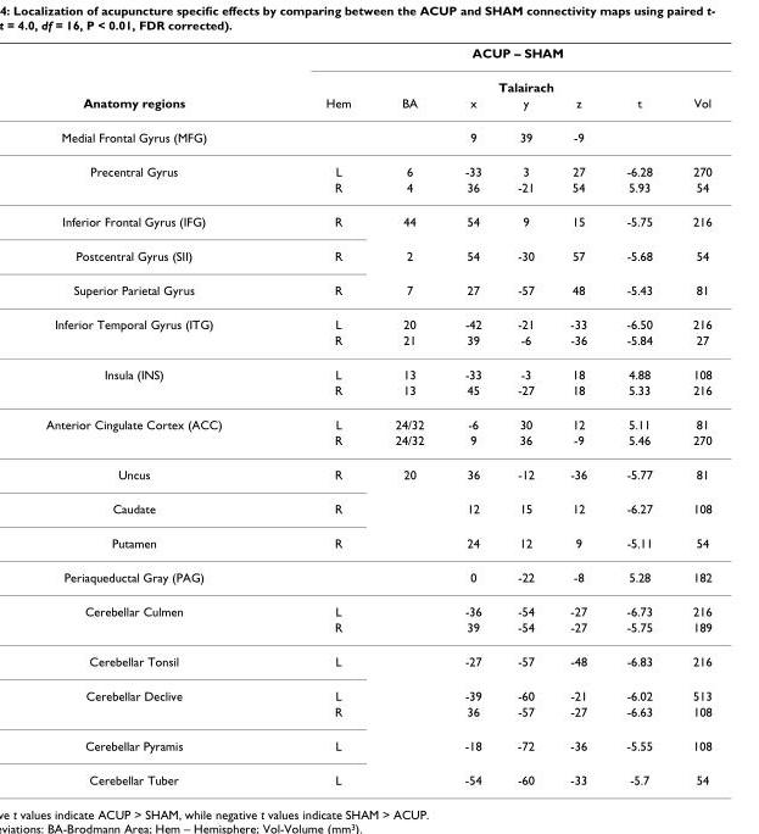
<table><thead><tr><td rowspan="3">Anatomy regions</td><td colspan="7">ACUP – SHAM</td></tr><tr><td rowspan="2">Hem</td><td rowspan="2">BA</td><td colspan="3">Talairach</td><td rowspan="2">t</td><td rowspan="2">Vol</td></tr><tr><td>x</td><td>y</td><td>z</td></tr></thead><tbody><tr><td>Medial Frontal Gyrus (MFG)</td><td></td><td></td><td>9</td><td>39</td><td>-9</td><td></td><td></td></tr><tr><td rowspan="2">Precentral Gyrus</td><td>L</td><td>6</td><td>-33</td><td>3</td><td>27</td><td>-6.28</td><td>270</td></tr><tr><td>R</td><td>4</td><td>36</td><td>-21</td><td>54</td><td>5.93</td><td>54</td></tr><tr><td>Inferior Frontal Gyrus (IFG)</td><td>R</td><td>44</td><td>54</td><td>9</td><td>15</td><td>-5.75</td><td>216</td></tr><tr><td>Postcentral Gyrus (SII)</td><td>R</td><td>2</td><td>54</td><td>-30</td><td>57</td><td>-5.68</td><td>54</td></tr><tr><td>Superior Parietal Gyrus</td><td>R</td><td>7</td><td>27</td><td>-57</td><td>48</td><td>-5.43</td><td>81</td></tr><tr><td rowspan="2">Inferior Temporal Gyrus (ITG)</td><td>L</td><td>20</td><td>-42</td><td>-21</td><td>-33</td><td>-6.50</td><td>216</td></tr><tr><td>R</td><td>21</td><td>39</td><td>-6</td><td>-36</td><td>-5.84</td><td>27</td></tr><tr><td rowspan="2">Insula (INS)</td><td>L</td><td>13</td><td>-33</td><td>-3</td><td>18</td><td>4.88</td><td>108</td></tr><tr><td>R</td><td>13</td><td>45</td><td>-27</td><td>18</td><td>5.33</td><td>216</td></tr><tr><td rowspan="2">Anterior Cingulate Cortex (ACC)</td><td>L</td><td>24/32</td><td>-6</td><td>30</td><td>12</td><td>5.11</td><td>81</td></tr><tr><td>R</td><td>24/32</td><td>9</td><td>36</td><td>-9</td><td>5.46</td><td>270</td></tr><tr><td>Uncus</td><td>R</td><td>20</td><td>36</td><td>-12</td><td>-36</td><td>-5.77</td><td>81</td></tr><tr><td>Caudate</td><td>R</td><td></td><td>12</td><td>15</td><td>12</td><td>-6.27</td><td>108</td></tr><tr><td>Putamen</td><td>R</td><td></td><td>24</td><td>12</td><td>9</td><td>-5.11</td><td>54</td></tr><tr><td>Periaqueductal Gray (PAG)</td><td></td><td></td><td>0</td><td>-22</td><td>-8</td><td>5.28</td><td>182</td></tr><tr><td rowspan="2">Cerebellar Culmen</td><td>L</td><td></td><td>-36</td><td>-54</td><td>-27</td><td>-6.73</td><td>216</td></tr><tr><td>R</td><td></td><td>39</td><td>-54</td><td>-27</td><td>-5.75</td><td>189</td></tr><tr><td>Cerebellar Tonsil</td><td>L</td><td></td><td>-27</td><td>-57</td><td>-48</td><td>-6.83</td><td>216</td></tr><tr><td rowspan="2">Cerebellar Declive</td><td>L</td><td></td><td>-39</td><td>-60</td><td>-21</td><td>-6.02</td><td>513</td></tr><tr><td>R</td><td></td><td>36</td><td>-57</td><td>-27</td><td>-6.63</td><td>108</td></tr><tr><td>Cerebellar Pyramis</td><td>L</td><td></td><td>-18</td><td>-72</td><td>-36</td><td>-5.55</td><td>108</td></tr><tr><td>Cerebellar Tuber</td><td>L</td><td></td><td>-54</td><td>-60</td><td>-33</td><td>-5.7</td><td>54</td></tr></tbody></table>